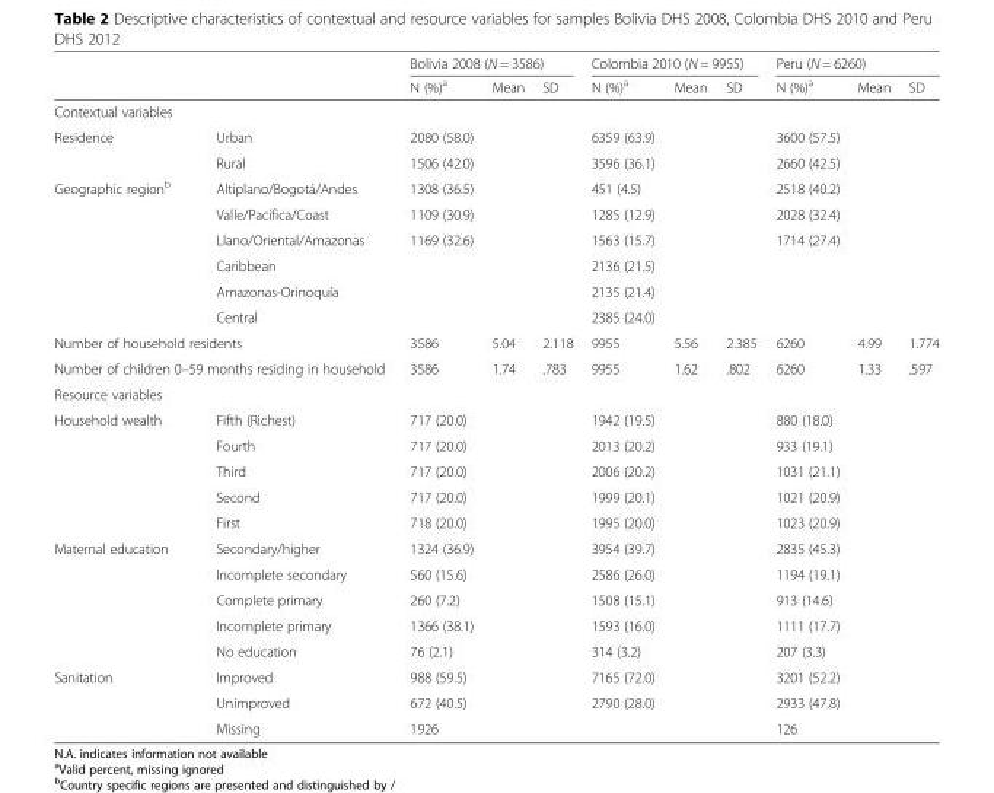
<table><thead><tr><td rowspan="2"></td><td rowspan="2"></td><td colspan="3">Bolivia 2008 (N = 3586)</td><td colspan="3">Colombia 2010 (N = 9955)</td><td colspan="3">Peru (N = 6260)</td></tr><tr><td>N (%)<sup>a</sup></td><td>Mean</td><td>SD</td><td>N (%)<sup>a</sup></td><td>Mean</td><td>SD</td><td>N (%)<sup>a</sup></td><td>Mean</td><td>SD</td></tr></thead><tbody><tr><td colspan="11">Contextual variables</td></tr><tr><td rowspan="2">Residence</td><td>Urban</td><td>2080 (58.0)</td><td></td><td></td><td>6359 (63.9)</td><td></td><td></td><td>3600 (57.5)</td><td></td><td></td></tr><tr><td>Rural</td><td>1506 (42.0)</td><td></td><td></td><td>3596 (36.1)</td><td></td><td></td><td>2660 (42.5)</td><td></td><td></td></tr><tr><td rowspan="6">Geographic region<sup>b</sup></td><td>Altiplano/Bogotá/Andes</td><td>1308 (36.5)</td><td></td><td></td><td>451 (4.5)</td><td></td><td></td><td>2518 (40.2)</td><td></td><td></td></tr><tr><td>Valle/Pacífica/Coast</td><td>1109 (30.9)</td><td></td><td></td><td>1285 (12.9)</td><td></td><td></td><td>2028 (32.4)</td><td></td><td></td></tr><tr><td>Llano/Oriental/Amazonas</td><td>1169 (32.6)</td><td></td><td></td><td>1563 (15.7)</td><td></td><td></td><td>1714 (27.4)</td><td></td><td></td></tr><tr><td>Caribbean</td><td></td><td></td><td></td><td>2136 (21.5)</td><td></td><td></td><td></td><td></td><td></td></tr><tr><td>Amazonas-Orinoquía</td><td></td><td></td><td></td><td>2135 (21.4)</td><td></td><td></td><td></td><td></td><td></td></tr><tr><td>Central</td><td></td><td></td><td></td><td>2385 (24.0)</td><td></td><td></td><td></td><td></td><td></td></tr><tr><td colspan="2">Number of household residents</td><td>3586</td><td>5.04</td><td>2.118</td><td>9955</td><td>5.56</td><td>2.385</td><td>6260</td><td>4.99</td><td>1.774</td></tr><tr><td colspan="2">Number of children 0–59 months residing in household</td><td>3586</td><td>1.74</td><td>.783</td><td>9955</td><td>1.62</td><td>.802</td><td>6260</td><td>1.33</td><td>.597</td></tr><tr><td colspan="11">Resource variables</td></tr><tr><td rowspan="5">Household wealth</td><td>Fifth (Richest)</td><td>717 (20.0)</td><td></td><td></td><td>1942 (19.5)</td><td></td><td></td><td>880 (18.0)</td><td></td><td></td></tr><tr><td>Fourth</td><td>717 (20.0)</td><td></td><td></td><td>2013 (20.2)</td><td></td><td></td><td>933 (19.1)</td><td></td><td></td></tr><tr><td>Third</td><td>717 (20.0)</td><td></td><td></td><td>2006 (20.2)</td><td></td><td></td><td>1031 (21.1)</td><td></td><td></td></tr><tr><td>Second</td><td>717 (20.0)</td><td></td><td></td><td>1999 (20.1)</td><td></td><td></td><td>1021 (20.9)</td><td></td><td></td></tr><tr><td>First</td><td>718 (20.0)</td><td></td><td></td><td>1995 (20.0)</td><td></td><td></td><td>1023 (20.9)</td><td></td><td></td></tr><tr><td rowspan="5">Maternal education</td><td>Secondary/higher</td><td>1324 (36.9)</td><td></td><td></td><td>3954 (39.7)</td><td></td><td></td><td>2835 (45.3)</td><td></td><td></td></tr><tr><td>Incomplete secondary</td><td>560 (15.6)</td><td></td><td></td><td>2586 (26.0)</td><td></td><td></td><td>1194 (19.1)</td><td></td><td></td></tr><tr><td>Complete primary</td><td>260 (7.2)</td><td></td><td></td><td>1508 (15.1)</td><td></td><td></td><td>913 (14.6)</td><td></td><td></td></tr><tr><td>Incomplete primary</td><td>1366 (38.1)</td><td></td><td></td><td>1593 (16.0)</td><td></td><td></td><td>1111 (17.7)</td><td></td><td></td></tr><tr><td>No education</td><td>76 (2.1)</td><td></td><td></td><td>314 (3.2)</td><td></td><td></td><td>207 (3.3)</td><td></td><td></td></tr><tr><td rowspan="3">Sanitation</td><td>Improved</td><td>988 (59.5)</td><td></td><td></td><td>7165 (72.0)</td><td></td><td></td><td>3201 (52.2)</td><td></td><td></td></tr><tr><td>Unimproved</td><td>672 (40.5)</td><td></td><td></td><td>2790 (28.0)</td><td></td><td></td><td>2933 (47.8)</td><td></td><td></td></tr><tr><td>Missing</td><td>1926</td><td></td><td></td><td></td><td></td><td></td><td>126</td><td></td><td></td></tr></tbody></table>